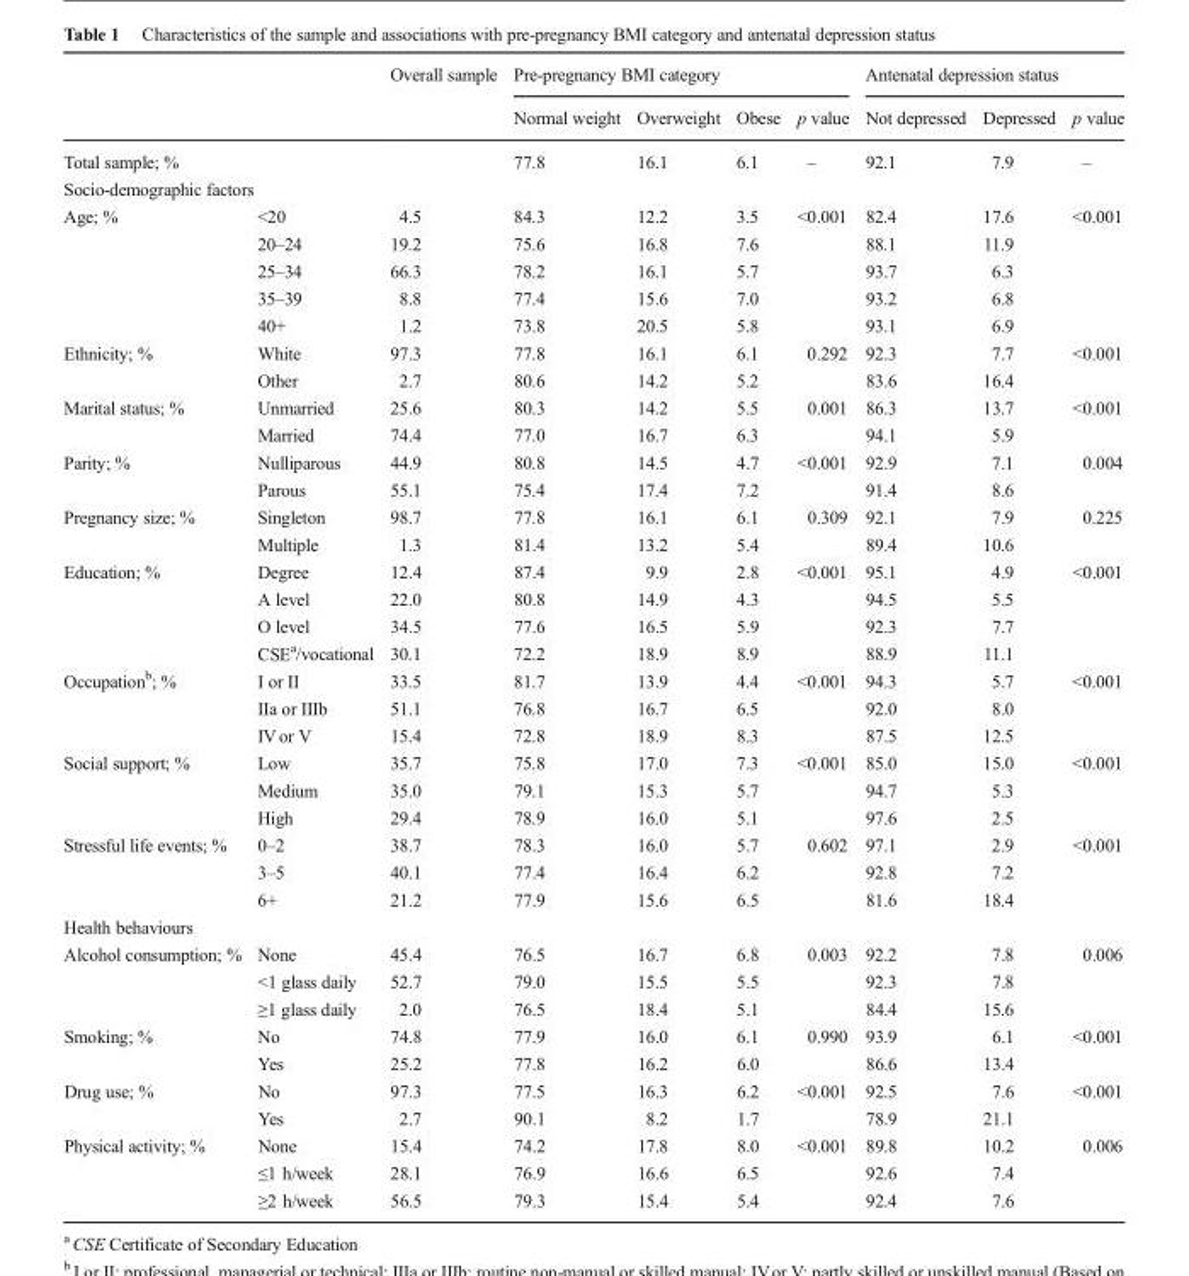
<table><thead><tr><td rowspan="2"></td><td rowspan="2"></td><td rowspan="2">Overall sample</td><td colspan="4">Pre-pregnancy BMI category</td><td colspan="3">Antenatal depression status</td></tr><tr><td>Normal weight</td><td>Overweight</td><td>Obese</td><td>p value</td><td>Not depressed</td><td>Depressed</td><td>p value</td></tr></thead><tbody><tr><td colspan="2">Total sample; %</td><td></td><td>77.8</td><td>16.1</td><td>6.1</td><td>–</td><td>92.1</td><td>7.9</td><td>–</td></tr><tr><td colspan="10">Socio-demographic factors</td></tr><tr><td rowspan="5">Age; %</td><td>&lt;20</td><td>4.5</td><td>84.3</td><td>12.2</td><td>3.5</td><td>&lt;0.001</td><td>82.4</td><td>17.6</td><td>&lt;0.001</td></tr><tr><td>20–24</td><td>19.2</td><td>75.6</td><td>16.8</td><td>7.6</td><td></td><td>88.1</td><td>11.9</td><td></td></tr><tr><td>25–34</td><td>66.3</td><td>78.2</td><td>16.1</td><td>5.7</td><td></td><td>93.7</td><td>6.3</td><td></td></tr><tr><td>35–39</td><td>8.8</td><td>77.4</td><td>15.6</td><td>7.0</td><td></td><td>93.2</td><td>6.8</td><td></td></tr><tr><td>40+</td><td>1.2</td><td>73.8</td><td>20.5</td><td>5.8</td><td></td><td>93.1</td><td>6.9</td><td></td></tr><tr><td rowspan="2">Ethnicity; %</td><td>White</td><td>97.3</td><td>77.8</td><td>16.1</td><td>6.1</td><td>0.292</td><td>92.3</td><td>7.7</td><td>&lt;0.001</td></tr><tr><td>Other</td><td>2.7</td><td>80.6</td><td>14.2</td><td>5.2</td><td></td><td>83.6</td><td>16.4</td><td></td></tr><tr><td rowspan="2">Marital status; %</td><td>Unmarried</td><td>25.6</td><td>80.3</td><td>14.2</td><td>5.5</td><td>0.001</td><td>86.3</td><td>13.7</td><td>&lt;0.001</td></tr><tr><td>Married</td><td>74.4</td><td>77.0</td><td>16.7</td><td>6.3</td><td></td><td>94.1</td><td>5.9</td><td></td></tr><tr><td rowspan="2">Parity; %</td><td>Nulliparous</td><td>44.9</td><td>80.8</td><td>14.5</td><td>4.7</td><td>&lt;0.001</td><td>92.9</td><td>7.1</td><td>0.004</td></tr><tr><td>Parous</td><td>55.1</td><td>75.4</td><td>17.4</td><td>7.2</td><td></td><td>91.4</td><td>8.6</td><td></td></tr><tr><td rowspan="2">Pregnancy size; %</td><td>Singleton</td><td>98.7</td><td>77.8</td><td>16.1</td><td>6.1</td><td>0.309</td><td>92.1</td><td>7.9</td><td>0.225</td></tr><tr><td>Multiple</td><td>1.3</td><td>81.4</td><td>13.2</td><td>5.4</td><td></td><td>89.4</td><td>10.6</td><td></td></tr><tr><td rowspan="4">Education; %</td><td>Degree</td><td>12.4</td><td>87.4</td><td>9.9</td><td>2.8</td><td>&lt;0.001</td><td>95.1</td><td>4.9</td><td>&lt;0.001</td></tr><tr><td>A level</td><td>22.0</td><td>80.8</td><td>14.9</td><td>4.3</td><td></td><td>94.5</td><td>5.5</td><td></td></tr><tr><td>O level</td><td>34.5</td><td>77.6</td><td>16.5</td><td>5.9</td><td></td><td>92.3</td><td>7.7</td><td></td></tr><tr><td>CSE<sup>a</sup>/vocational</td><td>30.1</td><td>72.2</td><td>18.9</td><td>8.9</td><td></td><td>88.9</td><td>11.1</td><td></td></tr><tr><td rowspan="3">Occupation<sup>b</sup>; %</td><td>I or II</td><td>33.5</td><td>81.7</td><td>13.9</td><td>4.4</td><td>&lt;0.001</td><td>94.3</td><td>5.7</td><td>&lt;0.001</td></tr><tr><td>IIa or IIIb</td><td>51.1</td><td>76.8</td><td>16.7</td><td>6.5</td><td></td><td>92.0</td><td>8.0</td><td></td></tr><tr><td>IVor V</td><td>15.4</td><td>72.8</td><td>18.9</td><td>8.3</td><td></td><td>87.5</td><td>12.5</td><td></td></tr><tr><td rowspan="3">Social support; %</td><td>Low</td><td>35.7</td><td>75.8</td><td>17.0</td><td>7.3</td><td>&lt;0.001</td><td>85.0</td><td>15.0</td><td>&lt;0.001</td></tr><tr><td>Medium</td><td>35.0</td><td>79.1</td><td>15.3</td><td>5.7</td><td></td><td>94.7</td><td>5.3</td><td></td></tr><tr><td>High</td><td>29.4</td><td>78.9</td><td>16.0</td><td>5.1</td><td></td><td>97.6</td><td>2.5</td><td></td></tr><tr><td rowspan="3">Stressful life events; %</td><td>0–2</td><td>38.7</td><td>78.3</td><td>16.0</td><td>5.7</td><td>0.602</td><td>97.1</td><td>2.9</td><td>&lt;0.001</td></tr><tr><td>3–5</td><td>40.1</td><td>77.4</td><td>16.4</td><td>6.2</td><td></td><td>92.8</td><td>7.2</td><td></td></tr><tr><td>6+</td><td>21.2</td><td>77.9</td><td>15.6</td><td>6.5</td><td></td><td>81.6</td><td>18.4</td><td></td></tr><tr><td colspan="10">Health behaviours</td></tr><tr><td rowspan="3">Alcohol consumption; %</td><td>None</td><td>45.4</td><td>76.5</td><td>16.7</td><td>6.8</td><td>0.003</td><td>92.2</td><td>7.8</td><td>0.006</td></tr><tr><td>&lt;1 glass daily</td><td>52.7</td><td>79.0</td><td>15.5</td><td>5.5</td><td></td><td>92.3</td><td>7.8</td><td></td></tr><tr><td>≥1 glass daily</td><td>2.0</td><td>76.5</td><td>18.4</td><td>5.1</td><td></td><td>84.4</td><td>15.6</td><td></td></tr><tr><td rowspan="2">Smoking; %</td><td>No</td><td>74.8</td><td>77.9</td><td>16.0</td><td>6.1</td><td>0.990</td><td>93.9</td><td>6.1</td><td>&lt;0.001</td></tr><tr><td>Yes</td><td>25.2</td><td>77.8</td><td>16.2</td><td>6.0</td><td></td><td>86.6</td><td>13.4</td><td></td></tr><tr><td rowspan="2">Drug use; %</td><td>No</td><td>97.3</td><td>77.5</td><td>16.3</td><td>6.2</td><td>&lt;0.001</td><td>92.5</td><td>7.6</td><td>&lt;0.001</td></tr><tr><td>Yes</td><td>2.7</td><td>90.1</td><td>8.2</td><td>1.7</td><td></td><td>78.9</td><td>21.1</td><td></td></tr><tr><td rowspan="3">Physical activity; %</td><td>None</td><td>15.4</td><td>74.2</td><td>17.8</td><td>8.0</td><td>&lt;0.001</td><td>89.8</td><td>10.2</td><td>0.006</td></tr><tr><td>≤1 h/week</td><td>28.1</td><td>76.9</td><td>16.6</td><td>6.5</td><td></td><td>92.6</td><td>7.4</td><td></td></tr><tr><td>≥2 h/week</td><td>56.5</td><td>79.3</td><td>15.4</td><td>5.4</td><td></td><td>92.4</td><td>7.6</td><td></td></tr></tbody></table>